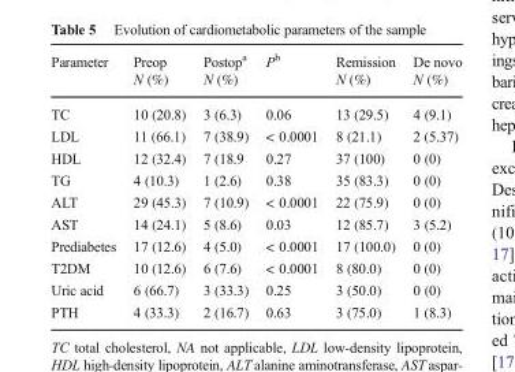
<table><thead><tr><td rowspan="2">Parameter</td><td rowspan="2">Preop N (%)</td><td rowspan="2">Postop<sup>a</sup> N (%)</td><td rowspan="2">P<sup>b</sup></td><td rowspan="2">Remission N (%)</td><td rowspan="2">De novo N (%)</td></tr><tr></tr></thead><tbody><tr><td>TC</td><td>10 (20.8)</td><td>3 (6.3)</td><td>0.06</td><td>13 (29.5)</td><td>4 (9.1)</td></tr><tr><td>LDL</td><td>11 (66.1)</td><td>7 (38.9)</td><td>&lt; 0.0001</td><td>8 (21.1)</td><td>2 (5.37)</td></tr><tr><td>HDL</td><td>12 (32.4)</td><td>7 (18.9</td><td>0.27</td><td>37 (100)</td><td>0 (0)</td></tr><tr><td>TG</td><td>4 (10.3)</td><td>1 (2.6)</td><td>0.38</td><td>35 (83.3)</td><td>0 (0)</td></tr><tr><td>ALT</td><td>29 (45.3)</td><td>7 (10.9)</td><td>&lt; 0.0001</td><td>22 (75.9)</td><td>0 (0)</td></tr><tr><td>AST</td><td>14 (24.1)</td><td>5 (8.6)</td><td>0.03</td><td>12 (85.7)</td><td>3 (5.2)</td></tr><tr><td>Prediabetes</td><td>17 (12.6)</td><td>4 (5.0)</td><td>&lt; 0.0001</td><td>17 (100.0)</td><td>0 (0)</td></tr><tr><td>T2DM</td><td>10 (12.6)</td><td>6 (7.6)</td><td>&lt; 0.0001</td><td>8 (80.0)</td><td>0 (0)</td></tr><tr><td>Uric acid</td><td>6 (66.7)</td><td>3 (33.3)</td><td>0.25</td><td>3 (50.0)</td><td>0 (0)</td></tr><tr><td>PTH</td><td>4 (33.3)</td><td>2 (16.7)</td><td>0.63</td><td>3 (75.0)</td><td>1 (8.3)</td></tr></tbody></table>